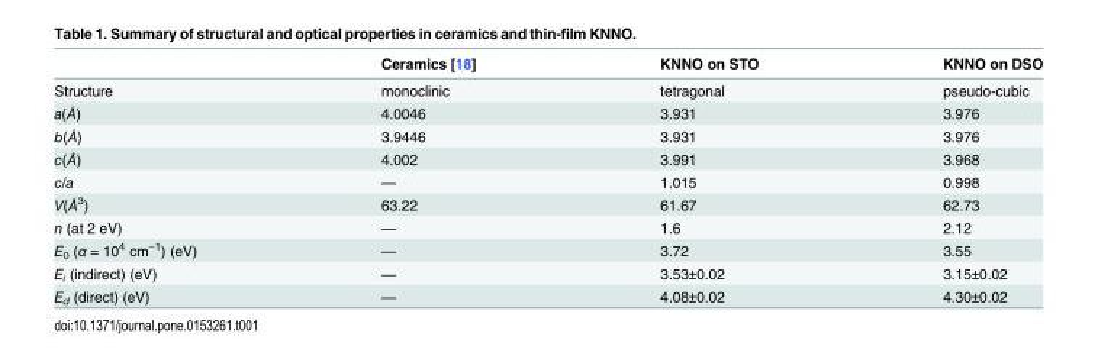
<table><thead><tr><td></td><td>Ceramics [18]</td><td>KNNO on STO</td><td>KNNO on DSO</td></tr></thead><tbody><tr><td>Structure</td><td>monoclinic</td><td>tetragonal</td><td>pseudo-cubic</td></tr><tr><td>a(Å)</td><td>4.0046</td><td>3.931</td><td>3.976</td></tr><tr><td>b(Å)</td><td>3.9446</td><td>3.931</td><td>3.976</td></tr><tr><td>c(Å)</td><td>4.002</td><td>3.991</td><td>3.968</td></tr><tr><td>c/a</td><td>—</td><td>1.015</td><td>0.998</td></tr><tr><td>V(Å<sup>3</sup>)</td><td>63.22</td><td>61.67</td><td>62.73</td></tr><tr><td>n (at 2 eV)</td><td>—</td><td>1.6</td><td>2.12</td></tr><tr><td>E<sub>0</sub> (α = 10<sup>4</sup> cm<sup>−1</sup>) (eV)</td><td>—</td><td>3.72</td><td>3.55</td></tr><tr><td>E<sub>i</sub> (indirect) (eV)</td><td>—</td><td>3.53±0.02</td><td>3.15±0.02</td></tr><tr><td>E<sub>d</sub> (direct) (eV)</td><td>—</td><td>4.08±0.02</td><td>4.30±0.02</td></tr></tbody></table>